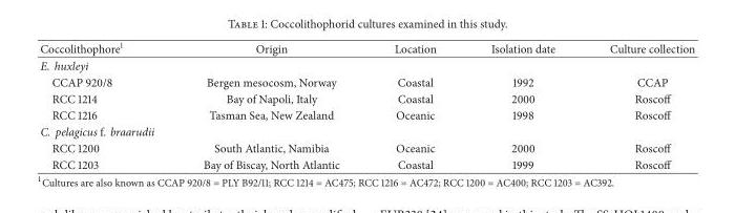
<table><thead><tr><td>Coccolithophore<sup>1</sup></td><td>Origin</td><td>Location</td><td>Isolation date</td><td>Culture collection</td></tr></thead><tbody><tr><td colspan="5">E. huxleyi</td></tr><tr><td>CCAP 920/8</td><td>Bergen mesocosm, Norway</td><td>Coastal</td><td>1992</td><td>CCAP</td></tr><tr><td>RCC 1214</td><td>Bay of Napoli, Italy</td><td>Coastal</td><td>2000</td><td>Roscoff</td></tr><tr><td>RCC 1216</td><td>Tasman Sea, New Zealand</td><td>Oceanic</td><td>1998</td><td>Roscoff</td></tr><tr><td colspan="5">C. pelagicus f. braarudii</td></tr><tr><td>RCC 1200</td><td>South Atlantic, Namibia</td><td>Oceanic</td><td>2000</td><td>Roscoff</td></tr><tr><td>RCC 1203</td><td>Bay of Biscay, North Atlantic</td><td>Coastal</td><td>1999</td><td>Roscoff</td></tr></tbody></table>